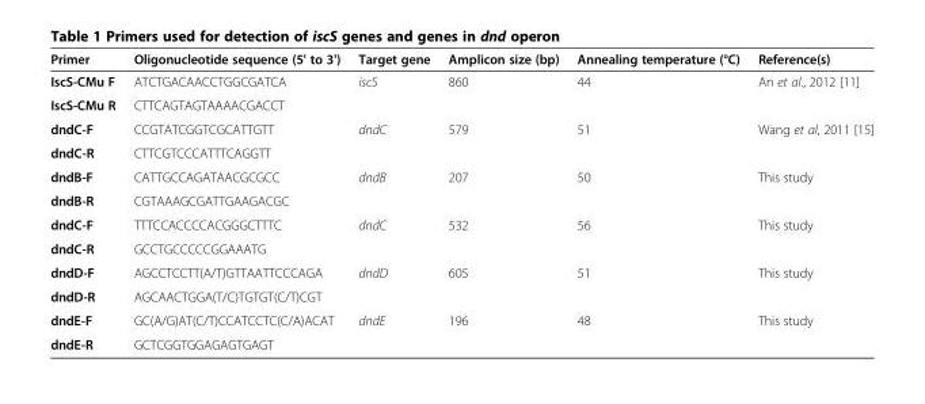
<table><thead><tr><td>Primer</td><td>Oligonucleotide sequence (5&#x27; to 3&#x27;)</td><td>Target gene</td><td>Amplicon size (bp)</td><td>Annealing temperature (°C)</td><td>Reference(s)</td></tr></thead><tbody><tr><td>IscS-CMu F</td><td>ATCTGACAACCTGGCGATCA</td><td rowspan="2">iscS</td><td rowspan="2">860</td><td rowspan="2">44</td><td rowspan="2">An et al., 2012 [11]</td></tr><tr><td>IscS-CMu R</td><td>CTTCAGTAGTAAAACGACCT</td></tr><tr><td>dndC-F</td><td>CCGTATCGGTCGCATTGTT</td><td rowspan="2">dndC</td><td rowspan="2">579</td><td rowspan="2">51</td><td rowspan="2">Wang et al, 2011 [15]</td></tr><tr><td>dndC-R</td><td>CTTCGTCCCATTTCAGGTT</td></tr><tr><td>dndB-F</td><td>CATTGCCAGATAACGCGCC</td><td rowspan="2">dndB</td><td rowspan="2">207</td><td rowspan="2">50</td><td rowspan="2">This study</td></tr><tr><td>dndB-R</td><td>CGTAAAGCGATTGAAGACGC</td></tr><tr><td>dndC-F</td><td>TTTCCACCCCACGGGCTTTC</td><td rowspan="2">dndC</td><td rowspan="2">532</td><td rowspan="2">56</td><td rowspan="2">This study</td></tr><tr><td>dndC-R</td><td>GCCTGCCCCCGGAAATG</td></tr><tr><td>dndD-F</td><td>AGCCTCCTT(A/T)GTTAATTCCCAGA</td><td rowspan="2">dndD</td><td rowspan="2">605</td><td rowspan="2">51</td><td rowspan="2">This study</td></tr><tr><td>dndD-R</td><td>AGCAACTGGA(T/C)TGTGT(C/T)CGT</td></tr><tr><td>dndE-F</td><td>GC(A/G)AT(C/T)CCATCCTC(C/A)ACAT</td><td rowspan="2">dndE</td><td rowspan="2">196</td><td rowspan="2">48</td><td rowspan="2">This study</td></tr><tr><td>dndE-R</td><td>GCTCGGTGGAGAGTGAGT</td></tr></tbody></table>